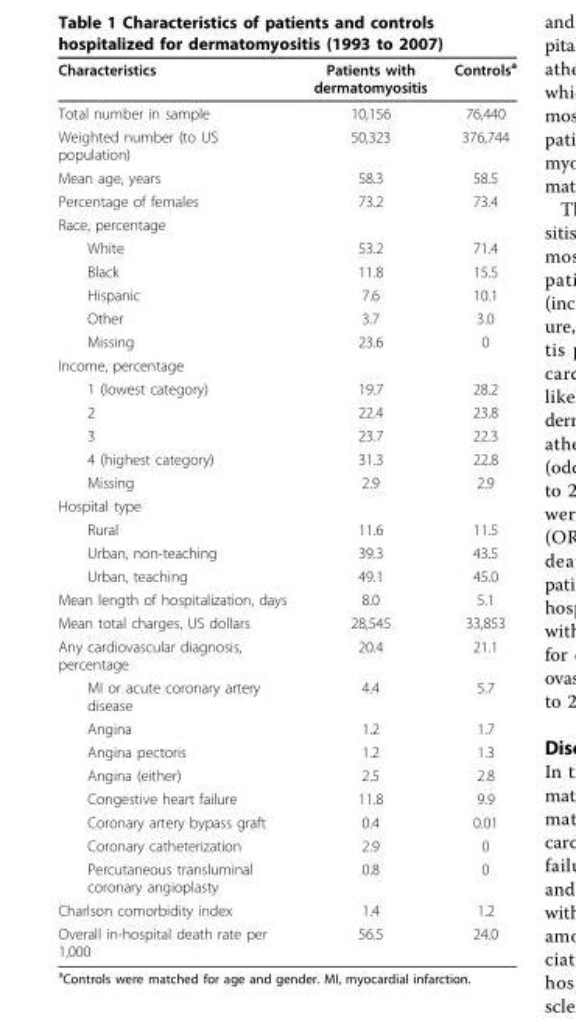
<table><thead><tr><td>Characteristics</td><td>Patients with dermatomyositis</td><td>Controls<sup>a</sup></td></tr></thead><tbody><tr><td>Total number in sample</td><td>10,156</td><td>76,440</td></tr><tr><td>Weighted number (to US population)</td><td>50,323</td><td>376,744</td></tr><tr><td>Mean age, years</td><td>58.3</td><td>58.5</td></tr><tr><td>Percentage of females</td><td>73.2</td><td>73.4</td></tr><tr><td colspan="3">Race, percentage</td></tr><tr><td>White</td><td>53.2</td><td>71.4</td></tr><tr><td>Black</td><td>11.8</td><td>15.5</td></tr><tr><td>Hispanic</td><td>7.6</td><td>10.1</td></tr><tr><td>Other</td><td>3.7</td><td>3.0</td></tr><tr><td>Missing</td><td>23.6</td><td>0</td></tr><tr><td colspan="3">Income, percentage</td></tr><tr><td>1 (lowest category)</td><td>19.7</td><td>28.2</td></tr><tr><td>2</td><td>22.4</td><td>23.8</td></tr><tr><td>3</td><td>23.7</td><td>22.3</td></tr><tr><td>4 (highest category)</td><td>31.3</td><td>22.8</td></tr><tr><td>Missing</td><td>2.9</td><td>2.9</td></tr><tr><td colspan="3">Hospital type</td></tr><tr><td>Rural</td><td>11.6</td><td>11.5</td></tr><tr><td>Urban, non-teaching</td><td>39.3</td><td>43.5</td></tr><tr><td>Urban, teaching</td><td>49.1</td><td>45.0</td></tr><tr><td>Mean length of hospitalization, days</td><td>8.0</td><td>5.1</td></tr><tr><td>Mean total charges, US dollars</td><td>28,545</td><td>33,853</td></tr><tr><td>Any cardiovascular diagnosis, percentage</td><td>20.4</td><td>21.1</td></tr><tr><td>MI or acute coronary artery disease</td><td>4.4</td><td>5.7</td></tr><tr><td>Angina</td><td>1.2</td><td>1.7</td></tr><tr><td>Angina pectoris</td><td>1.2</td><td>1.3</td></tr><tr><td>Angina (either)</td><td>2.5</td><td>2.8</td></tr><tr><td>Congestive heart failure</td><td>11.8</td><td>9.9</td></tr><tr><td>Coronary artery bypass graft</td><td>0.4</td><td>0.01</td></tr><tr><td>Coronary catheterization</td><td>2.9</td><td>0</td></tr><tr><td>Percutaneous transluminal coronary angioplasty</td><td>0.8</td><td>0</td></tr><tr><td>Charlson comorbidity index</td><td>1.4</td><td>1.2</td></tr><tr><td>Overall in-hospital death rate per 1,000</td><td>56.5</td><td>24.0</td></tr></tbody></table>